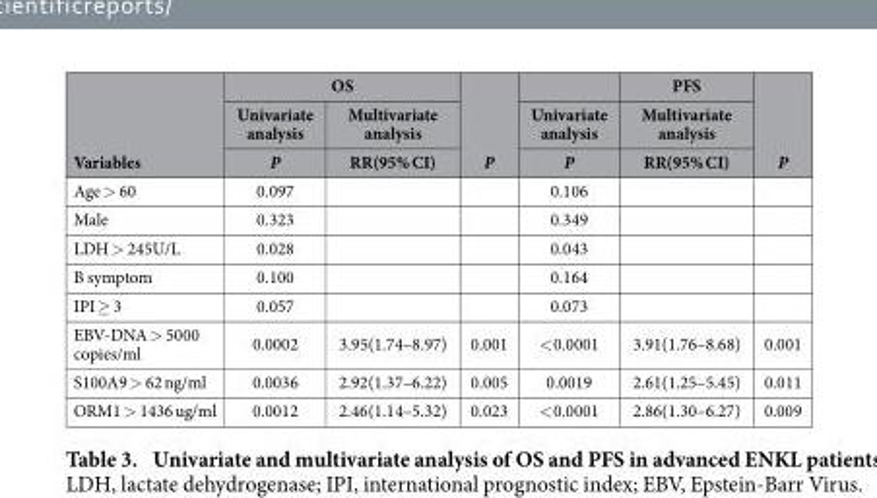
<table><thead><tr><td rowspan="3">Variables</td><td colspan="2">OS</td><td rowspan="3">P</td><td rowspan="3">Univariate analysis P</td><td rowspan="3">PFS Multivariate analysis RR(95% CI)</td><td rowspan="3">P</td></tr><tr><td rowspan="2">Univariate analysis P</td><td rowspan="2">Multivariate analysis RR(95% CI)</td></tr><tr></tr></thead><tbody><tr><td>Age &gt; 60</td><td>0.097</td><td></td><td></td><td>0.106</td><td></td><td></td></tr><tr><td>Male</td><td>0.323</td><td></td><td></td><td>0.349</td><td></td><td></td></tr><tr><td>LDH &gt; 245U/L</td><td>0.028</td><td></td><td></td><td>0.043</td><td></td><td></td></tr><tr><td>B symptom</td><td>0.100</td><td></td><td></td><td>0.164</td><td></td><td></td></tr><tr><td>IPI ≥ 3</td><td>0.057</td><td></td><td></td><td>0.073</td><td></td><td></td></tr><tr><td>EBV-DNA &gt; 5000 copies/ml</td><td>0.0002</td><td>3.95(1.74–8.97)</td><td>0.001</td><td>&lt; 0.0001</td><td>3.91(1.76–8.68)</td><td>0.001</td></tr><tr><td>S100A9 &gt; 62 ng/ml</td><td>0.0036</td><td>2.92(1.37–6.22)</td><td>0.005</td><td>0.0019</td><td>2.61(1.25–5.45)</td><td>0.011</td></tr><tr><td>ORM1 &gt; 1436 ug/ml</td><td>0.0012</td><td>2.46(1.14–5.32)</td><td>0.023</td><td>&lt; 0.0001</td><td>2.86(1.30–6.27)</td><td>0.009</td></tr></tbody></table>